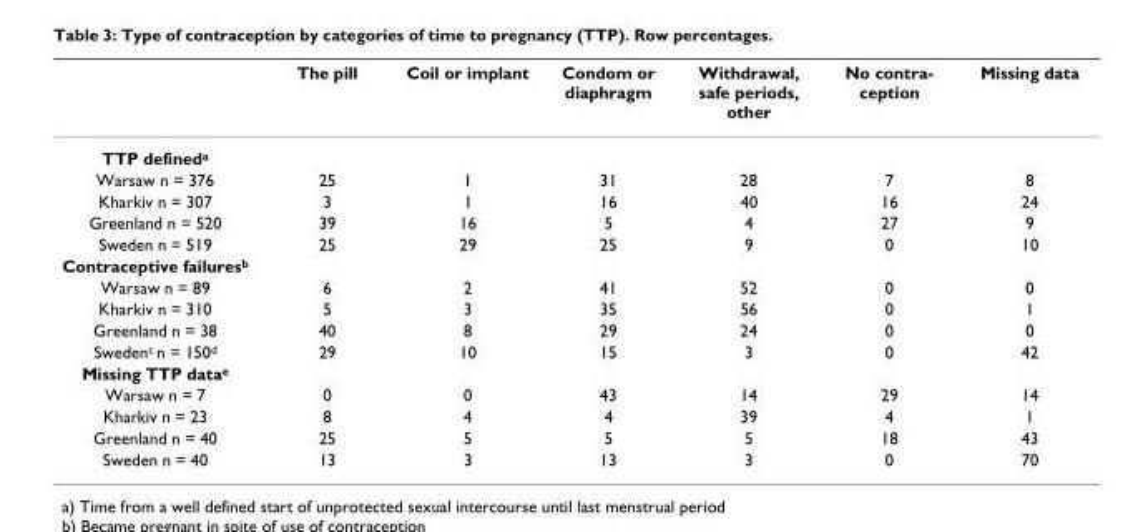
<table><thead><tr><td></td><td>The pill</td><td>Coil or implant</td><td>Condom or diaphragm</td><td>Withdrawal, safe periods, other</td><td>No contra- ception</td><td>Missing data</td></tr></thead><tbody><tr><td colspan="7">TTP defined<sup>a</sup></td></tr><tr><td>Warsaw n = 376</td><td>25</td><td>1</td><td>31</td><td>28</td><td>7</td><td>8</td></tr><tr><td>Kharkiv n = 307</td><td>3</td><td>1</td><td>16</td><td>40</td><td>16</td><td>24</td></tr><tr><td>Greenland n = 520</td><td>39</td><td>16</td><td>5</td><td>4</td><td>27</td><td>9</td></tr><tr><td>Sweden n = 519</td><td>25</td><td>29</td><td>25</td><td>9</td><td>0</td><td>10</td></tr><tr><td colspan="7">Contraceptive failures<sup>b</sup></td></tr><tr><td>Warsaw n = 89</td><td>6</td><td>2</td><td>41</td><td>52</td><td>0</td><td>0</td></tr><tr><td>Kharkiv n = 310</td><td>5</td><td>3</td><td>35</td><td>56</td><td>0</td><td>1</td></tr><tr><td>Greenland n = 38</td><td>40</td><td>8</td><td>29</td><td>24</td><td>0</td><td>0</td></tr><tr><td>Sweden<sup>c</sup> n = 150<sup>d</sup></td><td>29</td><td>10</td><td>15</td><td>3</td><td>0</td><td>42</td></tr><tr><td colspan="7">Missing TTP data<sup>e</sup></td></tr><tr><td>Warsaw n = 7</td><td>0</td><td>0</td><td>43</td><td>14</td><td>29</td><td>14</td></tr><tr><td>Kharkiv n = 23</td><td>8</td><td>4</td><td>4</td><td>39</td><td>4</td><td>1</td></tr><tr><td>Greenland n = 40</td><td>25</td><td>5</td><td>5</td><td>5</td><td>18</td><td>43</td></tr><tr><td>Sweden n = 40</td><td>13</td><td>3</td><td>13</td><td>3</td><td>0</td><td>70</td></tr></tbody></table>